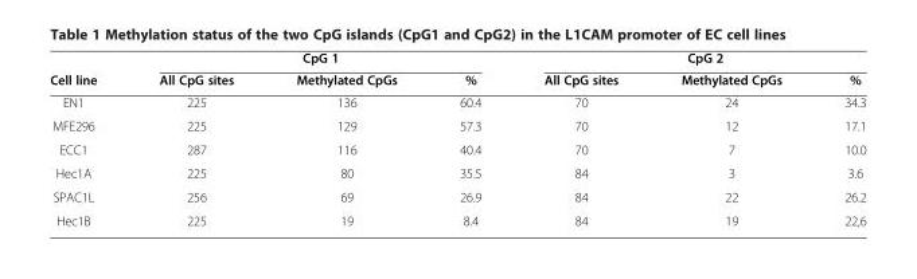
<table><thead><tr><td rowspan="2">Cell line</td><td colspan="3">CpG 1</td><td colspan="3">CpG 2</td></tr><tr><td>All CpG sites</td><td>Methylated CpGs</td><td>%</td><td>All CpG sites</td><td>Methylated CpGs</td><td>%</td></tr></thead><tbody><tr><td>EN1</td><td>225</td><td>136</td><td>60.4</td><td>70</td><td>24</td><td>34.3</td></tr><tr><td>MFE296</td><td>225</td><td>129</td><td>57.3</td><td>70</td><td>12</td><td>17.1</td></tr><tr><td>ECC1</td><td>287</td><td>116</td><td>40.4</td><td>70</td><td>7</td><td>10.0</td></tr><tr><td>Hec1A</td><td>225</td><td>80</td><td>35.5</td><td>84</td><td>3</td><td>3.6</td></tr><tr><td>SPAC1L</td><td>256</td><td>69</td><td>26.9</td><td>84</td><td>22</td><td>26.2</td></tr><tr><td>Hec1B</td><td>225</td><td>19</td><td>8.4</td><td>84</td><td>19</td><td>22,6</td></tr></tbody></table>